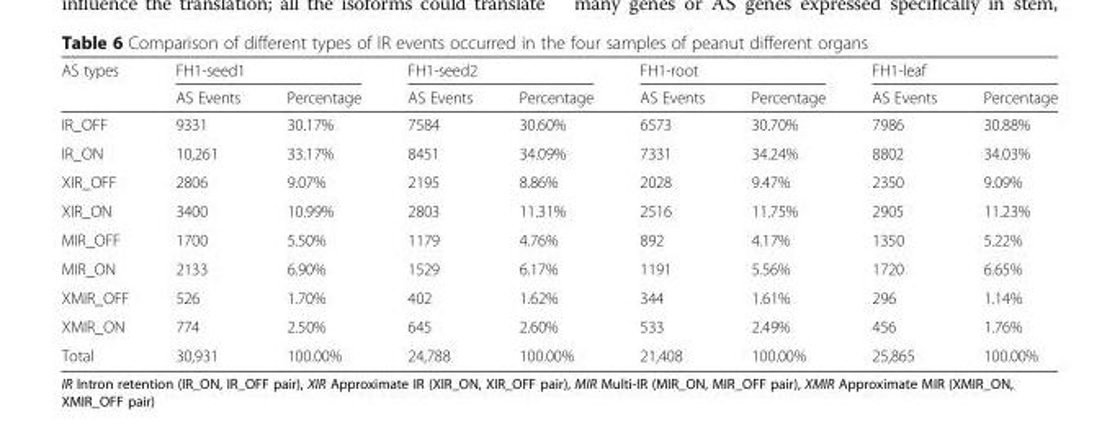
<table><thead><tr><td rowspan="2">AS types</td><td colspan="2">FH1-seed1</td><td colspan="2">FH1-seed2</td><td colspan="2">FH1-root</td><td colspan="2">FH1-leaf</td></tr><tr><td>AS Events</td><td>Percentage</td><td>AS Events</td><td>Percentage</td><td>AS Events</td><td>Percentage</td><td>AS Events</td><td>Percentage</td></tr></thead><tbody><tr><td>IR_OFF</td><td>9331</td><td>30.17%</td><td>7584</td><td>30.60%</td><td>6573</td><td>30.70%</td><td>7986</td><td>30.88%</td></tr><tr><td>IR_ON</td><td>10,261</td><td>33.17%</td><td>8451</td><td>34.09%</td><td>7331</td><td>34.24%</td><td>8802</td><td>34.03%</td></tr><tr><td>XIR_OFF</td><td>2806</td><td>9.07%</td><td>2195</td><td>8.86%</td><td>2028</td><td>9.47%</td><td>2350</td><td>9.09%</td></tr><tr><td>XIR_ON</td><td>3400</td><td>10.99%</td><td>2803</td><td>11.31%</td><td>2516</td><td>11.75%</td><td>2905</td><td>11.23%</td></tr><tr><td>MIR_OFF</td><td>1700</td><td>5.50%</td><td>1179</td><td>4.76%</td><td>892</td><td>4.17%</td><td>1350</td><td>5.22%</td></tr><tr><td>MIR_ON</td><td>2133</td><td>6.90%</td><td>1529</td><td>6.17%</td><td>1191</td><td>5.56%</td><td>1720</td><td>6.65%</td></tr><tr><td>XMIR_OFF</td><td>526</td><td>1.70%</td><td>402</td><td>1.62%</td><td>344</td><td>1.61%</td><td>296</td><td>1.14%</td></tr><tr><td>XMIR_ON</td><td>774</td><td>2.50%</td><td>645</td><td>2.60%</td><td>533</td><td>2.49%</td><td>456</td><td>1.76%</td></tr><tr><td>Total</td><td>30,931</td><td>100.00%</td><td>24,788</td><td>100.00%</td><td>21,408</td><td>100.00%</td><td>25,865</td><td>100.00%</td></tr></tbody></table>